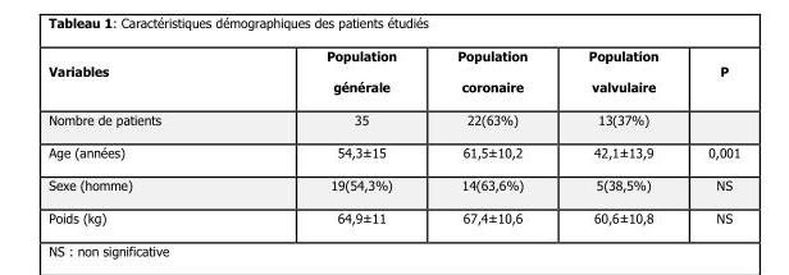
<table><thead><tr><td>Variables</td><td>Population générale</td><td>Population coronaire</td><td>Population valvulaire</td><td>P</td></tr></thead><tbody><tr><td>Nombre de patients</td><td>35</td><td>22(63%)</td><td>13(37%)</td><td></td></tr><tr><td>Age (années)</td><td>54,3±15</td><td>61,5±10,2</td><td>42,1±13,9</td><td>0,001</td></tr><tr><td>Sexe (homme)</td><td>19(54,3%)</td><td>14(63,6%)</td><td>5(38,5%)</td><td>NS</td></tr><tr><td>Poids (kg)</td><td>64,9±11</td><td>67,4±10,6</td><td>60,6±10,8</td><td>NS</td></tr></tbody></table>